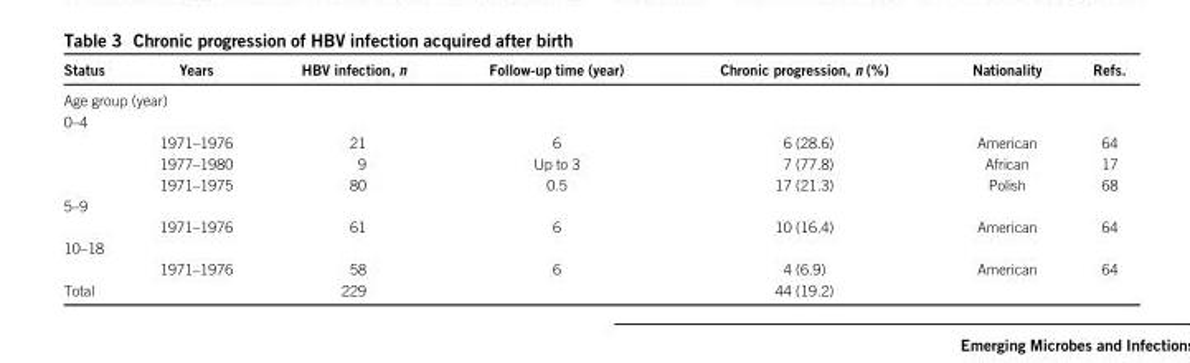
<table><tbody><tr><td>Status</td><td>Years</td><td>HBV infection, n</td><td>Follow-up time (year)</td><td>Chronic progression, n (%)</td><td>Nationality</td><td>Refs.</td></tr><tr><td colspan="7">Age group (year)</td></tr><tr><td colspan="7">0–4</td></tr><tr><td></td><td>1971–1976</td><td>21</td><td>6</td><td>6 (28.6)</td><td>American</td><td><sup>64</sup></td></tr><tr><td></td><td>1977–1980</td><td>9</td><td>Up to 3</td><td>7 (77.8)</td><td>African</td><td><sup>17</sup></td></tr><tr><td></td><td>1971–1975</td><td>80</td><td>0.5</td><td>17 (21.3)</td><td>Polish</td><td><sup>68</sup></td></tr><tr><td colspan="7">5–9</td></tr><tr><td></td><td>1971–1976</td><td>61</td><td>6</td><td>10 (16.4)</td><td>American</td><td><sup>64</sup></td></tr><tr><td colspan="7">10–18</td></tr><tr><td></td><td>1971–1976</td><td>58</td><td>6</td><td>4 (6.9)</td><td>American</td><td><sup>64</sup></td></tr><tr><td>Total</td><td></td><td>229</td><td></td><td>44 (19.2)</td><td></td><td></td></tr></tbody></table>